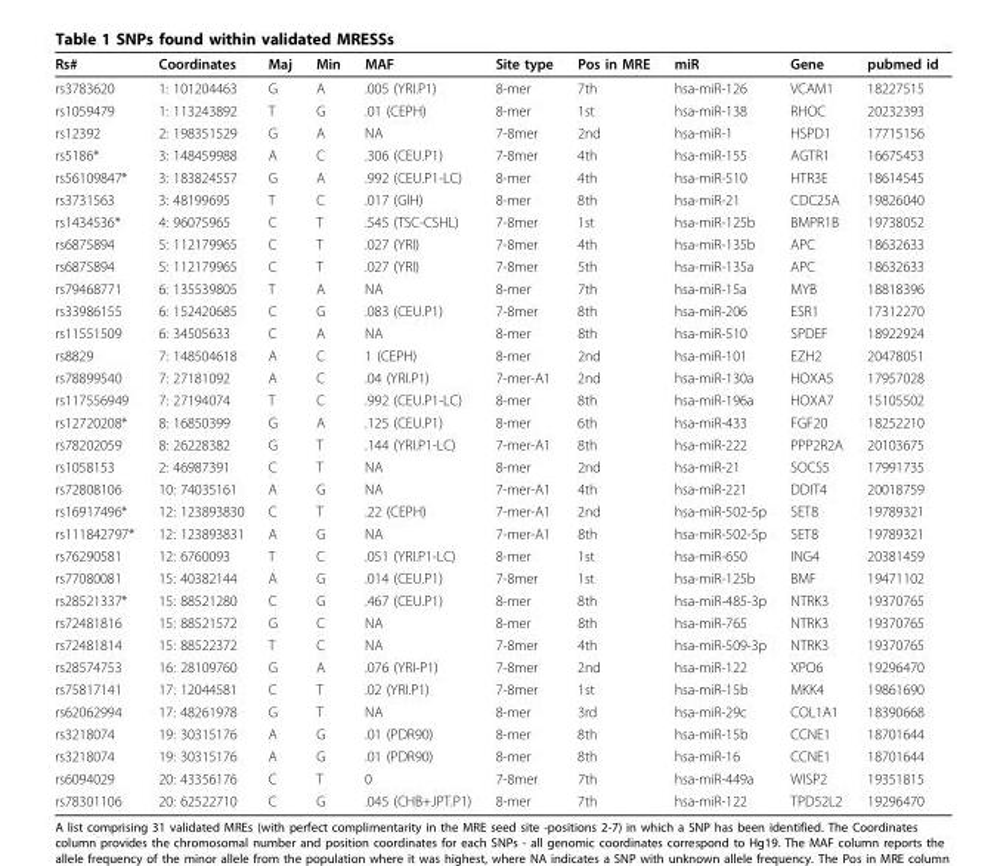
<table><thead><tr><td>Rs#</td><td>Coordinates</td><td>Maj</td><td>Min</td><td>MAF</td><td>Site type</td><td>Pos in MRE</td><td>miR</td><td>Gene</td><td>pubmed id</td></tr></thead><tbody><tr><td>rs3783620</td><td>1: 101204463</td><td>G</td><td>A</td><td>.005 (YRI.P1)</td><td>8-mer</td><td>7th</td><td>hsa-miR-126</td><td>VCAM1</td><td>18227515</td></tr><tr><td>rs1059479</td><td>1: 113243892</td><td>T</td><td>G</td><td>.01 (CEPH)</td><td>8-mer</td><td>1st</td><td>hsa-miR-138</td><td>RHOC</td><td>20232393</td></tr><tr><td>rs12392</td><td>2: 198351529</td><td>G</td><td>A</td><td>NA</td><td>7-8mer</td><td>2nd</td><td>hsa-miR-1</td><td>HSPD1</td><td>17715156</td></tr><tr><td>rs5186*</td><td>3: 148459988</td><td>A</td><td>C</td><td>.306 (CEU.P1)</td><td>7-8mer</td><td>4th</td><td>hsa-miR-155</td><td>AGTR1</td><td>16675453</td></tr><tr><td>rs56109847*</td><td>3: 183824557</td><td>G</td><td>A</td><td>.992 (CEU.P1-LC)</td><td>8-mer</td><td>4th</td><td>hsa-miR-510</td><td>HTR3E</td><td>18614545</td></tr><tr><td>rs3731563</td><td>3: 48199695</td><td>T</td><td>C</td><td>.017 (GIH)</td><td>8-mer</td><td>8th</td><td>hsa-miR-21</td><td>CDC25A</td><td>19826040</td></tr><tr><td>rs1434536*</td><td>4: 96075965</td><td>C</td><td>T</td><td>.545 (TSC-CSHL)</td><td>7-8mer</td><td>1st</td><td>hsa-miR-125b</td><td>BMPR1B</td><td>19738052</td></tr><tr><td>rs6875894</td><td>5: 112179965</td><td>C</td><td>T</td><td>.027 (YRI)</td><td>7-8mer</td><td>4th</td><td>hsa-miR-135b</td><td>APC</td><td>18632633</td></tr><tr><td>rs6875894</td><td>5: 112179965</td><td>C</td><td>T</td><td>.027 (YRI)</td><td>7-8mer</td><td>5th</td><td>hsa-miR-135a</td><td>APC</td><td>18632633</td></tr><tr><td>rs79468771</td><td>6: 135539805</td><td>T</td><td>A</td><td>NA</td><td>8-mer</td><td>7th</td><td>hsa-miR-15a</td><td>MYB</td><td>18818396</td></tr><tr><td>rs33986155</td><td>6: 152420685</td><td>C</td><td>G</td><td>.083 (CEU.P1)</td><td>7-8mer</td><td>8th</td><td>hsa-miR-206</td><td>ESR1</td><td>17312270</td></tr><tr><td>rs11551509</td><td>6: 34505633</td><td>C</td><td>A</td><td>NA</td><td>8-mer</td><td>8th</td><td>hsa-miR-510</td><td>SPDEF</td><td>18922924</td></tr><tr><td>rs8829</td><td>7: 148504618</td><td>A</td><td>C</td><td>1 (CEPH)</td><td>8-mer</td><td>2nd</td><td>hsa-miR-101</td><td>EZH2</td><td>20478051</td></tr><tr><td>rs78899540</td><td>7: 27181092</td><td>A</td><td>C</td><td>.04 (YRI.P1)</td><td>7-mer-A1</td><td>2nd</td><td>hsa-miR-130a</td><td>HOXA5</td><td>17957028</td></tr><tr><td>rs117556949</td><td>7: 27194074</td><td>T</td><td>C</td><td>.992 (CEU.P1-LC)</td><td>8-mer</td><td>8th</td><td>hsa-miR-196a</td><td>HOXA7</td><td>15105502</td></tr><tr><td>rs12720208*</td><td>8: 16850399</td><td>G</td><td>A</td><td>.125 (CEU.P1)</td><td>8-mer</td><td>6th</td><td>hsa-miR-433</td><td>FGF20</td><td>18252210</td></tr><tr><td>rs78202059</td><td>8: 26228382</td><td>G</td><td>T</td><td>.144 (YRI.P1-LC)</td><td>7-mer-A1</td><td>8th</td><td>hsa-miR-222</td><td>PPP2R2A</td><td>20103675</td></tr><tr><td>rs1058153</td><td>2: 46987391</td><td>C</td><td>T</td><td>NA</td><td>8-mer</td><td>2nd</td><td>hsa-miR-21</td><td>SOCS5</td><td>17991735</td></tr><tr><td>rs72808106</td><td>10: 74035161</td><td>A</td><td>G</td><td>NA</td><td>7-mer-A1</td><td>4th</td><td>hsa-miR-221</td><td>DDIT4</td><td>20018759</td></tr><tr><td>rs16917496*</td><td>12: 123893830</td><td>C</td><td>T</td><td>.22 (CEPH)</td><td>7-mer-A1</td><td>2nd</td><td>hsa-miR-502-5p</td><td>SET8</td><td>19789321</td></tr><tr><td>rs111842797*</td><td>12: 123893831</td><td>A</td><td>G</td><td>NA</td><td>7-mer-A1</td><td>8th</td><td>hsa-miR-502-5p</td><td>SET8</td><td>19789321</td></tr><tr><td>rs76290581</td><td>12: 6760093</td><td>T</td><td>C</td><td>.051 (YRI.P1-LC)</td><td>8-mer</td><td>1st</td><td>hsa-miR-650</td><td>ING4</td><td>20381459</td></tr><tr><td>rs77080081</td><td>15: 40382144</td><td>A</td><td>G</td><td>.014 (CEU.P1)</td><td>7-8mer</td><td>1st</td><td>hsa-miR-125b</td><td>BMF</td><td>19471102</td></tr><tr><td>rs28521337*</td><td>15: 88521280</td><td>C</td><td>G</td><td>.467 (CEU.P1)</td><td>8-mer</td><td>8th</td><td>hsa-miR-485-3p</td><td>NTRK3</td><td>19370765</td></tr><tr><td>rs72481816</td><td>15: 88521572</td><td>G</td><td>C</td><td>NA</td><td>8-mer</td><td>8th</td><td>hsa-miR-765</td><td>NTRK3</td><td>19370765</td></tr><tr><td>rs72481814</td><td>15: 88522372</td><td>T</td><td>C</td><td>NA</td><td>7-8mer</td><td>4th</td><td>hsa-miR-509-3p</td><td>NTRK3</td><td>19370765</td></tr><tr><td>rs28574753</td><td>16: 28109760</td><td>G</td><td>A</td><td>.076 (YRI-P1)</td><td>7-8mer</td><td>2nd</td><td>hsa-miR-122</td><td>XPO6</td><td>19296470</td></tr><tr><td>rs75817141</td><td>17: 12044581</td><td>C</td><td>T</td><td>.02 (YRI.P1)</td><td>7-8mer</td><td>1st</td><td>hsa-miR-15b</td><td>MKK4</td><td>19861690</td></tr><tr><td>rs62062994</td><td>17: 48261978</td><td>G</td><td>T</td><td>NA</td><td>8-mer</td><td>3rd</td><td>hsa-miR-29c</td><td>COL1A1</td><td>18390668</td></tr><tr><td>rs3218074</td><td>19: 30315176</td><td>A</td><td>G</td><td>.01 (PDR90)</td><td>8-mer</td><td>8th</td><td>hsa-miR-15b</td><td>CCNE1</td><td>18701644</td></tr><tr><td>rs3218074</td><td>19: 30315176</td><td>A</td><td>G</td><td>.01 (PDR90)</td><td>8-mer</td><td>8th</td><td>hsa-miR-16</td><td>CCNE1</td><td>18701644</td></tr><tr><td>rs6094029</td><td>20: 43356176</td><td>C</td><td>T</td><td>0</td><td>7-8mer</td><td>7th</td><td>hsa-miR-449a</td><td>WISP2</td><td>19351815</td></tr><tr><td>rs78301106</td><td>20: 62522710</td><td>C</td><td>G</td><td>.045 (CHB+JPT.P1)</td><td>8-mer</td><td>7th</td><td>hsa-miR-122</td><td>TPD52L2</td><td>19296470</td></tr></tbody></table>